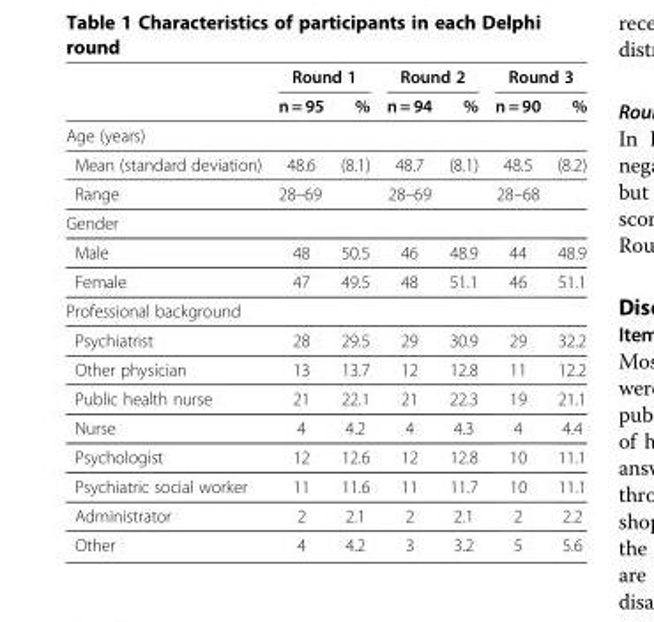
<table><thead><tr><td rowspan="2"></td><td colspan="2">Round 1</td><td colspan="2">Round 2</td><td colspan="2">Round 3</td></tr><tr><td>n = 95</td><td>%</td><td>n = 94</td><td>%</td><td>n = 90</td><td>%</td></tr></thead><tbody><tr><td colspan="7">Age (years)</td></tr><tr><td>Mean (standard deviation)</td><td>48.6</td><td>(8.1)</td><td>48.7</td><td>(8.1)</td><td>48.5</td><td>(8.2)</td></tr><tr><td>Range</td><td>28–69</td><td></td><td>28–69</td><td></td><td>28–68</td><td></td></tr><tr><td colspan="7">Gender</td></tr><tr><td>Male</td><td>48</td><td>50.5</td><td>46</td><td>48.9</td><td>44</td><td>48.9</td></tr><tr><td>Female</td><td>47</td><td>49.5</td><td>48</td><td>51.1</td><td>46</td><td>51.1</td></tr><tr><td colspan="7">Professional background</td></tr><tr><td>Psychiatrist</td><td>28</td><td>29.5</td><td>29</td><td>30.9</td><td>29</td><td>32.2</td></tr><tr><td>Other physician</td><td>13</td><td>13.7</td><td>12</td><td>12.8</td><td>11</td><td>12.2</td></tr><tr><td>Public health nurse</td><td>21</td><td>22.1</td><td>21</td><td>22.3</td><td>19</td><td>21.1</td></tr><tr><td>Nurse</td><td>4</td><td>4.2</td><td>4</td><td>4.3</td><td>4</td><td>4.4</td></tr><tr><td>Psychologist</td><td>12</td><td>12.6</td><td>12</td><td>12.8</td><td>10</td><td>11.1</td></tr><tr><td>Psychiatric social worker</td><td>11</td><td>11.6</td><td>11</td><td>11.7</td><td>10</td><td>11.1</td></tr><tr><td>Administrator</td><td>2</td><td>2.1</td><td>2</td><td>2.1</td><td>2</td><td>2.2</td></tr><tr><td>Other</td><td>4</td><td>4.2</td><td>3</td><td>3.2</td><td>5</td><td>5.6</td></tr></tbody></table>